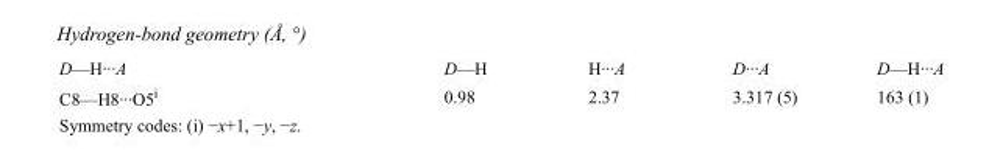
<table><tbody><tr><td>D—H···A</td><td>D—H</td><td>H···A</td><td>D···A</td><td>D—H···A</td></tr><tr><td>C8—H8···O5<sup>i</sup></td><td>0.98</td><td>2.37</td><td>3.317 (5)</td><td>163 (1)</td></tr></tbody></table>